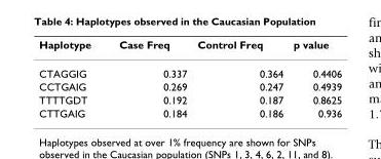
<table><thead><tr><td>Haplotype</td><td>Case Freq</td><td>Control Freq</td><td>p value</td></tr></thead><tbody><tr><td>CTAGGIG</td><td>0.337</td><td>0.364</td><td>0.4406</td></tr><tr><td>CCTGAIG</td><td>0.269</td><td>0.247</td><td>0.4939</td></tr><tr><td>TTTTGDT</td><td>0.192</td><td>0.187</td><td>0.8625</td></tr><tr><td>CTTGAIG</td><td>0.184</td><td>0.186</td><td>0.936</td></tr></tbody></table>